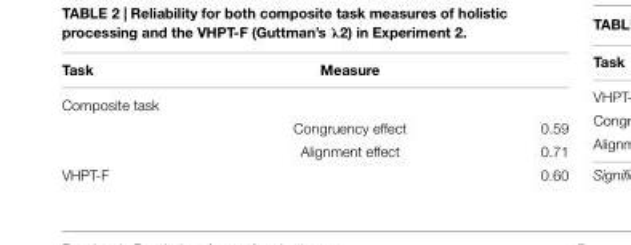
<table><thead><tr><td>Task</td><td>Measure</td><td></td></tr></thead><tbody><tr><td colspan="3">Composite task</td></tr><tr><td></td><td>Congruency effect</td><td>0.59</td></tr><tr><td></td><td>Alignment effect</td><td>0.71</td></tr><tr><td>VHPT-F</td><td></td><td>0.60</td></tr></tbody></table>